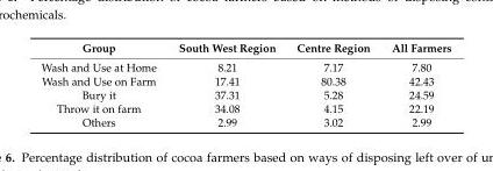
<table><thead><tr><td>Group</td><td>South West Region</td><td>Centre Region</td><td>All Farmers</td></tr></thead><tbody><tr><td>Wash and Use at Home</td><td>8.21</td><td>7.17</td><td>7.80</td></tr><tr><td>Wash and Use on Farm</td><td>17.41</td><td>80.38</td><td>42.43</td></tr><tr><td>Bury it</td><td>37.31</td><td>5.28</td><td>24.59</td></tr><tr><td>Throw it on farm</td><td>34.08</td><td>4.15</td><td>22.19</td></tr><tr><td>Others</td><td>2.99</td><td>3.02</td><td>2.99</td></tr></tbody></table>